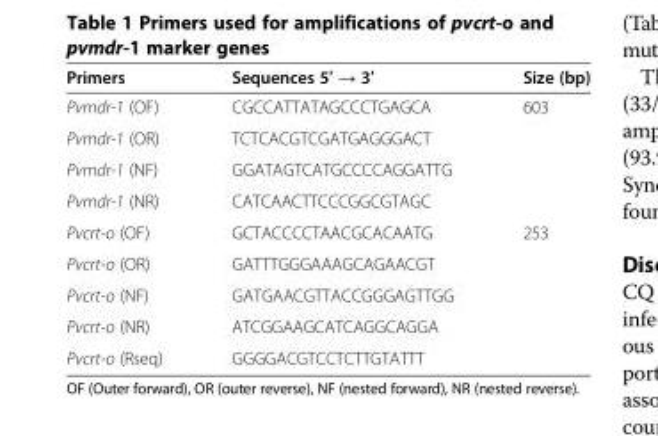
<table><thead><tr><td>Primers</td><td>Sequences 5′ → 3′</td><td>Size (bp)</td></tr></thead><tbody><tr><td>Pvmdr-1 (OF)</td><td>CGCCATTATAGCCCTGAGCA</td><td rowspan="4">603</td></tr><tr><td>Pvmdr-1 (OR)</td><td>TCTCACGTCGATGAGGGACT</td></tr><tr><td>Pvmdr-1 (NF)</td><td>GGATAGTCATGCCCCAGGATTG</td></tr><tr><td>Pvmdr-1 (NR)</td><td>CATCAACTTCCCGGCGTAGC</td></tr><tr><td>Pvcrt-o (OF)</td><td>GCTACCCCTAACGCACAATG</td><td rowspan="5">253</td></tr><tr><td>Pvcrt-o (OR)</td><td>GATTTGGGAAAGCAGAACGT</td></tr><tr><td>Pvcrt-o (NF)</td><td>GATGAACGTTACCGGGAGTTGG</td></tr><tr><td>Pvcrt-o (NR)</td><td>ATCGGAAGCATCAGGCAGGA</td></tr><tr><td>Pvcrt-o (Rseq)</td><td>GGGGACGTCCTCTTGTATTT</td></tr></tbody></table>